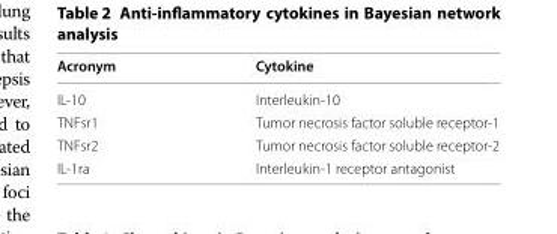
<table><thead><tr><td>Acronym</td><td>Cytokine</td></tr></thead><tbody><tr><td>IL-10</td><td>Interleukin-10</td></tr><tr><td>TNFsr1</td><td>Tumor necrosis factor soluble receptor-1</td></tr><tr><td>TNFsr2</td><td>Tumor necrosis factor soluble receptor-2</td></tr><tr><td>IL-1ra</td><td>Interleukin-1 receptor antagonist</td></tr></tbody></table>